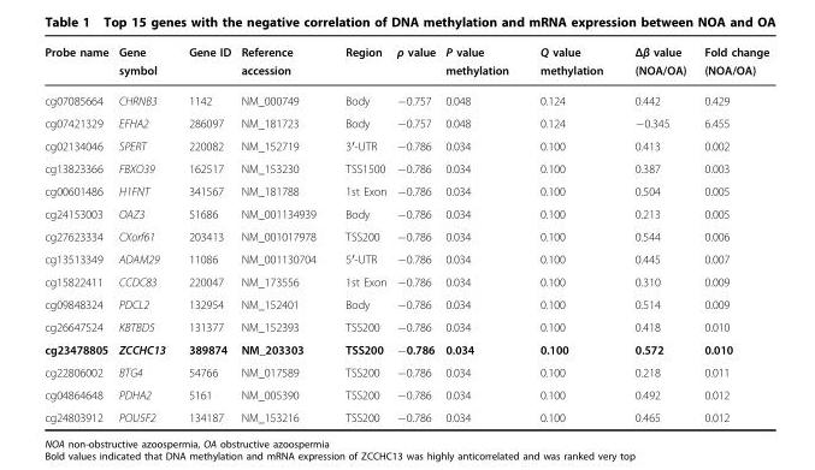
<table><thead><tr><td>Probe name</td><td>Gene symbol</td><td>Gene ID</td><td>Reference accession</td><td>Region</td><td>ρ value</td><td>P value methylation</td><td>Q value methylation</td><td>Δβ value (NOA/OA)</td><td>Fold change (NOA/OA)</td></tr></thead><tbody><tr><td>cg07085664</td><td>CHRNB3</td><td>1142</td><td>NM_000749</td><td>Body</td><td>−0.757</td><td>0.048</td><td>0.124</td><td>0.442</td><td>0.429</td></tr><tr><td>cg07421329</td><td>EFHA2</td><td>286097</td><td>NM_181723</td><td>Body</td><td>−0.757</td><td>0.048</td><td>0.124</td><td>−0.345</td><td>6.455</td></tr><tr><td>cg02134046</td><td>SPERT</td><td>220082</td><td>NM_152719</td><td>3′-UTR</td><td>−0.786</td><td>0.034</td><td>0.100</td><td>0.413</td><td>0.002</td></tr><tr><td>cg13823366</td><td>FBXO39</td><td>162517</td><td>NM_153230</td><td>TSS1500</td><td>−0.786</td><td>0.034</td><td>0.100</td><td>0.387</td><td>0.003</td></tr><tr><td>cg00601486</td><td>H1FNT</td><td>341567</td><td>NM_181788</td><td>1st Exon</td><td>−0.786</td><td>0.034</td><td>0.100</td><td>0.504</td><td>0.005</td></tr><tr><td>cg24153003</td><td>OAZ3</td><td>51686</td><td>NM_001134939</td><td>Body</td><td>−0.786</td><td>0.034</td><td>0.100</td><td>0.213</td><td>0.005</td></tr><tr><td>cg27623334</td><td>CXorf61</td><td>203413</td><td>NM_001017978</td><td>TSS200</td><td>−0.786</td><td>0.034</td><td>0.100</td><td>0.544</td><td>0.006</td></tr><tr><td>cg13513349</td><td>ADAM29</td><td>11086</td><td>NM_001130704</td><td>5′-UTR</td><td>−0.786</td><td>0.034</td><td>0.100</td><td>0.445</td><td>0.007</td></tr><tr><td>cg15822411</td><td>CCDC83</td><td>220047</td><td>NM_173556</td><td>1st Exon</td><td>−0.786</td><td>0.034</td><td>0.100</td><td>0.310</td><td>0.009</td></tr><tr><td>cg09848324</td><td>PDCL2</td><td>132954</td><td>NM_152401</td><td>Body</td><td>−0.786</td><td>0.034</td><td>0.100</td><td>0.514</td><td>0.009</td></tr><tr><td>cg26647524</td><td>KBTBD5</td><td>131377</td><td>NM_152393</td><td>TSS200</td><td>−0.786</td><td>0.034</td><td>0.100</td><td>0.418</td><td>0.010</td></tr><tr><td>cg23478805</td><td>ZCCHC13</td><td>389874</td><td>NM_203303</td><td>TSS200</td><td>−0.786</td><td>0.034</td><td>0.100</td><td>0.572</td><td>0.010</td></tr><tr><td>cg22806002</td><td>BTG4</td><td>54766</td><td>NM_017589</td><td>TSS200</td><td>−0.786</td><td>0.034</td><td>0.100</td><td>0.218</td><td>0.011</td></tr><tr><td>cg04864648</td><td>PDHA2</td><td>5161</td><td>NM_005390</td><td>TSS200</td><td>−0.786</td><td>0.034</td><td>0.100</td><td>0.492</td><td>0.012</td></tr><tr><td>cg24803912</td><td>POU5F2</td><td>134187</td><td>NM_153216</td><td>TSS200</td><td>−0.786</td><td>0.034</td><td>0.100</td><td>0.465</td><td>0.012</td></tr></tbody></table>